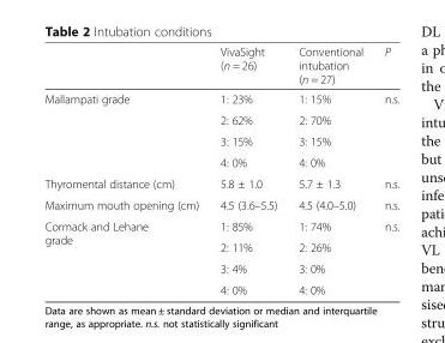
<table><thead><tr><td></td><td>VivaSight (n = 26)</td><td>Conventional intubation (n = 27)</td><td>P</td></tr></thead><tbody><tr><td rowspan="4">Mallampati grade</td><td>1: 23%</td><td>1: 15%</td><td rowspan="4">n.s.</td></tr><tr><td>2: 62%</td><td>2: 70%</td></tr><tr><td>3: 15%</td><td>3: 15%</td></tr><tr><td>4: 0%</td><td>4: 0%</td></tr><tr><td>Thyromental distance (cm)</td><td>5.8 ± 1.0</td><td>5.7 ± 1.3</td><td>n.s.</td></tr><tr><td>Maximum mouth opening (cm)</td><td>4.5 (3.6–5.5)</td><td>4.5 (4.0–5.0)</td><td>n.s.</td></tr><tr><td rowspan="4">Cormack and Lehane grade</td><td>1: 85%</td><td>1: 74%</td><td rowspan="4">n.s.</td></tr><tr><td>2: 11%</td><td>2: 26%</td></tr><tr><td>3: 4%</td><td>3: 0%</td></tr><tr><td>4: 0%</td><td>4: 0%</td></tr></tbody></table>